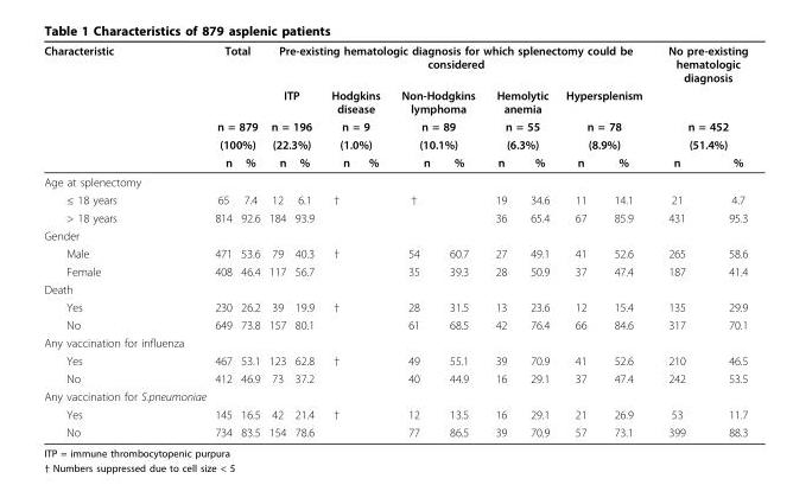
<table><thead><tr><td rowspan="5">Characteristic</td><td colspan="2">Total</td><td colspan="10">Pre-existing hematologic diagnosis for which splenectomy could be considered</td><td colspan="2">No pre-existing hematologic diagnosis</td></tr><tr><td></td><td></td><td rowspan="3" colspan="2">ITP n = 196 (22.3%)</td><td rowspan="3" colspan="2">Hodgkins disease n = 9 (1.0%)</td><td rowspan="3" colspan="2">Non-Hodgkins lymphoma n = 89 (10.1%)</td><td rowspan="3" colspan="2">Hemolytic anemia n = 55 (6.3%)</td><td rowspan="3" colspan="2">Hypersplenism n = 78 (8.9%)</td><td></td><td></td></tr><tr><td rowspan="2" colspan="2">n = 879 (100%)</td><td rowspan="2" colspan="2">n = 452 (51.4%)</td></tr><tr></tr><tr><td>n</td><td>%</td><td>n</td><td>%</td><td>n</td><td>%</td><td>n</td><td>%</td><td>n</td><td>%</td><td>n</td><td>%</td><td>n</td><td>%</td></tr></thead><tbody><tr><td colspan="15">Age at splenectomy</td></tr><tr><td>≤ 18 years</td><td>65</td><td>7.4</td><td>12</td><td>6.1</td><td>†</td><td></td><td>†</td><td></td><td>19</td><td>34.6</td><td>11</td><td>14.1</td><td>21</td><td>4.7</td></tr><tr><td>&gt; 18 years</td><td>814</td><td>92.6</td><td>184</td><td>93.9</td><td></td><td></td><td></td><td></td><td>36</td><td>65.4</td><td>67</td><td>85.9</td><td>431</td><td>95.3</td></tr><tr><td colspan="15">Gender</td></tr><tr><td>Male</td><td>471</td><td>53.6</td><td>79</td><td>40.3</td><td>†</td><td></td><td>54</td><td>60.7</td><td>27</td><td>49.1</td><td>41</td><td>52.6</td><td>265</td><td>58.6</td></tr><tr><td>Female</td><td>408</td><td>46.4</td><td>117</td><td>56.7</td><td></td><td></td><td>35</td><td>39.3</td><td>28</td><td>50.9</td><td>37</td><td>47.4</td><td>187</td><td>41.4</td></tr><tr><td colspan="15">Death</td></tr><tr><td>Yes</td><td>230</td><td>26.2</td><td>39</td><td>19.9</td><td>†</td><td></td><td>28</td><td>31.5</td><td>13</td><td>23.6</td><td>12</td><td>15.4</td><td>135</td><td>29.9</td></tr><tr><td>No</td><td>649</td><td>73.8</td><td>157</td><td>80.1</td><td></td><td></td><td>61</td><td>68.5</td><td>42</td><td>76.4</td><td>66</td><td>84.6</td><td>317</td><td>70.1</td></tr><tr><td colspan="15">Any vaccination for influenza</td></tr><tr><td>Yes</td><td>467</td><td>53.1</td><td>123</td><td>62.8</td><td>†</td><td></td><td>49</td><td>55.1</td><td>39</td><td>70.9</td><td>41</td><td>52.6</td><td>210</td><td>46.5</td></tr><tr><td>No</td><td>412</td><td>46.9</td><td>73</td><td>37.2</td><td></td><td></td><td>40</td><td>44.9</td><td>16</td><td>29.1</td><td>37</td><td>47.4</td><td>242</td><td>53.5</td></tr><tr><td colspan="15">Any vaccination for S.pneumoniae</td></tr><tr><td>Yes</td><td>145</td><td>16.5</td><td>42</td><td>21.4</td><td>†</td><td></td><td>12</td><td>13.5</td><td>16</td><td>29.1</td><td>21</td><td>26.9</td><td>53</td><td>11.7</td></tr><tr><td>No</td><td>734</td><td>83.5</td><td>154</td><td>78.6</td><td></td><td></td><td>77</td><td>86.5</td><td>39</td><td>70.9</td><td>57</td><td>73.1</td><td>399</td><td>88.3</td></tr></tbody></table>